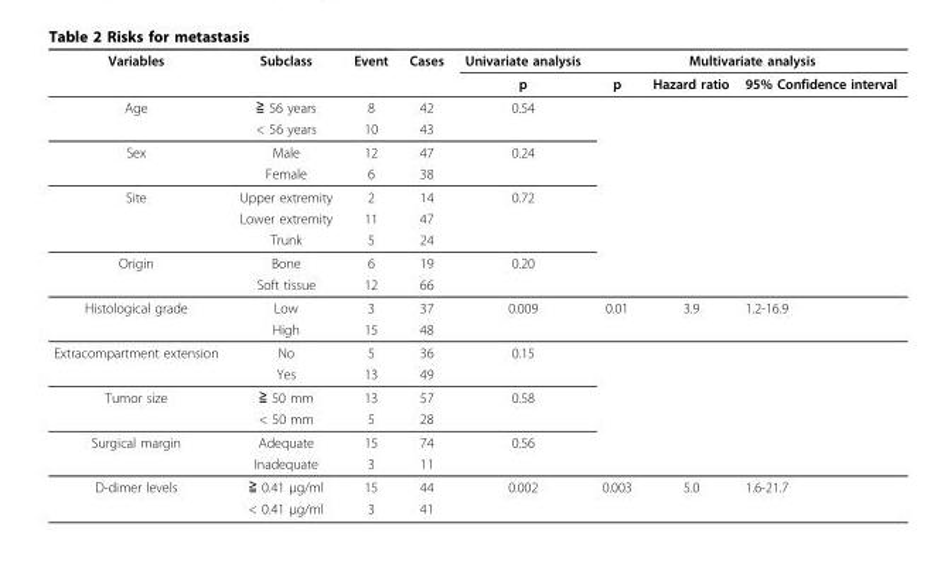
<table><thead><tr><td rowspan="2">Variables</td><td rowspan="2">Subclass</td><td rowspan="2">Event</td><td rowspan="2">Cases</td><td rowspan="2">Univariate analysis p</td><td colspan="3">Multivariate analysis</td></tr><tr><td>p</td><td>Hazard ratio</td><td>95% Confidence interval</td></tr></thead><tbody><tr><td rowspan="2">Age</td><td>≧ 56 years</td><td>8</td><td>42</td><td>0.54</td><td></td><td></td><td></td></tr><tr><td>&lt; 56 years</td><td>10</td><td>43</td><td></td><td></td><td></td><td></td></tr><tr><td rowspan="2">Sex</td><td>Male</td><td>12</td><td>47</td><td>0.24</td><td></td><td></td><td></td></tr><tr><td>Female</td><td>6</td><td>38</td><td></td><td></td><td></td><td></td></tr><tr><td rowspan="3">Site</td><td>Upper extremity</td><td>2</td><td>14</td><td>0.72</td><td></td><td></td><td></td></tr><tr><td>Lower extremity</td><td>11</td><td>47</td><td></td><td></td><td></td><td></td></tr><tr><td>Trunk</td><td>5</td><td>24</td><td></td><td></td><td></td><td></td></tr><tr><td rowspan="2">Origin</td><td>Bone</td><td>6</td><td>19</td><td>0.20</td><td></td><td></td><td></td></tr><tr><td>Soft tissue</td><td>12</td><td>66</td><td></td><td></td><td></td><td></td></tr><tr><td rowspan="2">Histological grade</td><td>Low</td><td>3</td><td>37</td><td>0.009</td><td>0.01</td><td>3.9</td><td>1.2-16.9</td></tr><tr><td>High</td><td>15</td><td>48</td><td></td><td></td><td></td><td></td></tr><tr><td rowspan="2">Extracompartment extension</td><td>No</td><td>5</td><td>36</td><td>0.15</td><td></td><td></td><td></td></tr><tr><td>Yes</td><td>13</td><td>49</td><td></td><td></td><td></td><td></td></tr><tr><td rowspan="2">Tumor size</td><td>≧ 50 mm</td><td>13</td><td>57</td><td>0.58</td><td></td><td></td><td></td></tr><tr><td>&lt; 50 mm</td><td>5</td><td>28</td><td></td><td></td><td></td><td></td></tr><tr><td rowspan="2">Surgical margin</td><td>Adequate</td><td>15</td><td>74</td><td>0.56</td><td></td><td></td><td></td></tr><tr><td>Inadequate</td><td>3</td><td>11</td><td></td><td></td><td></td><td></td></tr><tr><td rowspan="2">D-dimer levels</td><td>≧ 0.41 μg/ml</td><td>15</td><td>44</td><td>0.002</td><td>0.003</td><td>5.0</td><td>1.6-21.7</td></tr><tr><td>&lt; 0.41 μg/ml</td><td>3</td><td>41</td><td></td><td></td><td></td><td></td></tr></tbody></table>